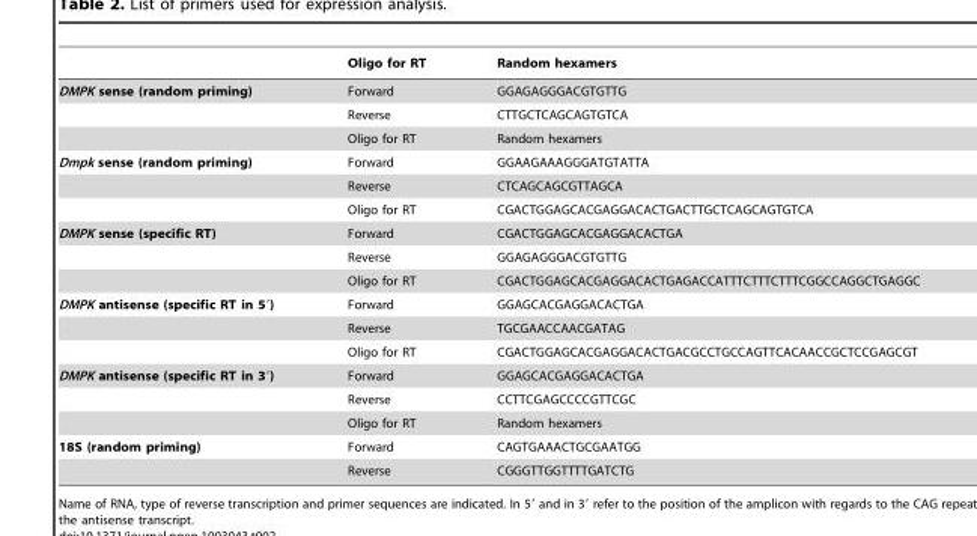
<table><thead><tr><td></td><td>Oligo for RT</td><td>Random hexamers</td></tr></thead><tbody><tr><td rowspan="3">DMPK sense (random priming)</td><td>Forward</td><td>GGAGAGGGACGTGTTG</td></tr><tr><td>Reverse</td><td>CTTGCTCAGCAGTGTCA</td></tr><tr><td>Oligo for RT</td><td>Random hexamers</td></tr><tr><td rowspan="3">Dmpk sense (random priming)</td><td>Forward</td><td>GGAAGAAAGGGATGTATTA</td></tr><tr><td>Reverse</td><td>CTCAGCAGCGTTAGCA</td></tr><tr><td>Oligo for RT</td><td>CGACTGGAGCACGAGGACACTGACTTGCTCAGCAGTGTCA</td></tr><tr><td rowspan="3">DMPK sense (specific RT)</td><td>Forward</td><td>CGACTGGAGCACGAGGACACTGA</td></tr><tr><td>Reverse</td><td>GGAGAGGGACGTGTTG</td></tr><tr><td>Oligo for RT</td><td>CGACTGGAGCACGAGGACACTGAGACCATTTCTTTCTTTCGGCCAGGCTGAGGC</td></tr><tr><td rowspan="3">DMPK antisense (specific RT in 5′)</td><td>Forward</td><td>GGAGCACGAGGACACTGA</td></tr><tr><td>Reverse</td><td>TGCGAACCAACGATAG</td></tr><tr><td>Oligo for RT</td><td>CGACTGGAGCACGAGGACACTGACGCCTGCCAGTTCACAACCGCTCCGAGCGT</td></tr><tr><td rowspan="3">DMPK antisense (specific RT in 3′)</td><td>Forward</td><td>GGAGCACGAGGACACTGA</td></tr><tr><td>Reverse</td><td>CCTTCGAGCCCCGTTCGC</td></tr><tr><td>Oligo for RT</td><td>Random hexamers</td></tr><tr><td rowspan="2">18S (random priming)</td><td>Forward</td><td>CAGTGAAACTGCGAATGG</td></tr><tr><td>Reverse</td><td>CGGGTTGGTTTTGATCTG</td></tr></tbody></table>